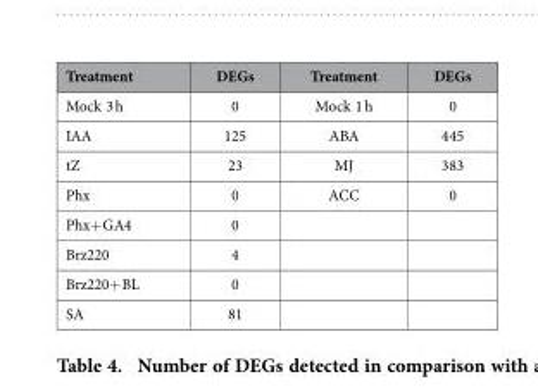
<table><thead><tr><td>Treatment</td><td>DEGs</td><td>Treatment</td><td>DEGs</td></tr></thead><tbody><tr><td>Mock 3 h</td><td>0</td><td>Mock 1 h</td><td>0</td></tr><tr><td>IAA</td><td>125</td><td>ABA</td><td>445</td></tr><tr><td>tZ</td><td>23</td><td>MJ</td><td>383</td></tr><tr><td>Phx</td><td>0</td><td>ACC</td><td>0</td></tr><tr><td>Phx+ GA4</td><td>0</td><td></td><td></td></tr><tr><td>Brz220</td><td>4</td><td></td><td></td></tr><tr><td>Brz220+ BL</td><td>0</td><td></td><td></td></tr><tr><td>SA</td><td>81</td><td></td><td></td></tr></tbody></table>